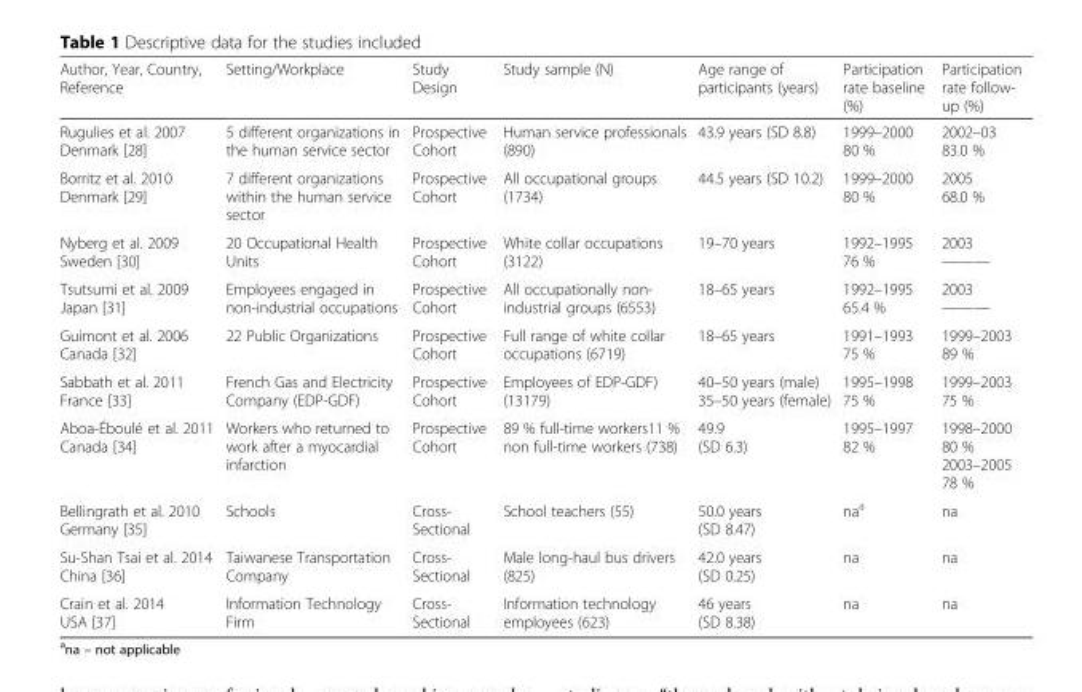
<table><thead><tr><td>Author, Year, Country, Reference</td><td>Setting/Workplace</td><td>Study Design</td><td>Study sample (N)</td><td>Age range of participants (years)</td><td>Participation rate baseline (%)</td><td>Participation rate follow- up (%)</td></tr></thead><tbody><tr><td>Rugulies et al. 2007 Denmark [28]</td><td>5 different organizations in the human service sector</td><td>Prospective Cohort</td><td>Human service professionals (890)</td><td>43.9 years (SD 8.8)</td><td>1999–2000 80 %</td><td>2002–03 83.0 %</td></tr><tr><td>Borritz et al. 2010 Denmark [29]</td><td>7 different organizations within the human service sector</td><td>Prospective Cohort</td><td>All occupational groups (1734)</td><td>44.5 years (SD 10.2)</td><td>1999–2000 80 %</td><td>2005 68.0 %</td></tr><tr><td>Nyberg et al. 2009 Sweden [30]</td><td>20 Occupational Health Units</td><td>Prospective Cohort</td><td>White collar occupations (3122)</td><td>19–70 years</td><td>1992–1995 76 %</td><td>2003 ———</td></tr><tr><td>Tsutsumi et al. 2009 Japan [31]</td><td>Employees engaged in non-industrial occupations</td><td>Prospective Cohort</td><td>All occupationally non- industrial groups (6553)</td><td>18–65 years</td><td>1992–1995 65.4 %</td><td>2003 ———</td></tr><tr><td>Guimont et al. 2006 Canada [32]</td><td>22 Public Organizations</td><td>Prospective Cohort</td><td>Full range of white collar occupations (6719)</td><td>18–65 years</td><td>1991–1993 75 %</td><td>1999–2003 89 %</td></tr><tr><td>Sabbath et al. 2011 France [33]</td><td>French Gas and Electricity Company (EDP-GDF)</td><td>Prospective Cohort</td><td>Employees of EDP-GDF) (13179)</td><td>40–50 years (male) 35–50 years (female)</td><td>1995–1998 75 %</td><td>1999–2003 75 %</td></tr><tr><td>Aboa-Éboulé et al. 2011 Canada [34]</td><td>Workers who returned to work after a myocardial infarction</td><td>Prospective Cohort</td><td>89 % full-time workers11 % non full-time workers (738)</td><td>49.9 (SD 6.3)</td><td>1995–1997 82 %</td><td>1998–2000 80 % 2003–2005 78 %</td></tr><tr><td>Bellingrath et al. 2010 Germany [35]</td><td>Schools</td><td>Cross- Sectional</td><td>School teachers (55)</td><td>50.0 years (SD 8.47)</td><td>na<sup>a</sup></td><td>na</td></tr><tr><td>Su-Shan Tsai et al. 2014 China [36]</td><td>Taiwanese Transportation Company</td><td>Cross- Sectional</td><td>Male long-haul bus drivers (825)</td><td>42.0 years (SD 0.25)</td><td>na</td><td>na</td></tr><tr><td>Crain et al. 2014 USA [37]</td><td>Information Technology Firm</td><td>Cross- Sectional</td><td>Information technology employees (623)</td><td>46 years (SD 8.38)</td><td>na</td><td>na</td></tr></tbody></table>